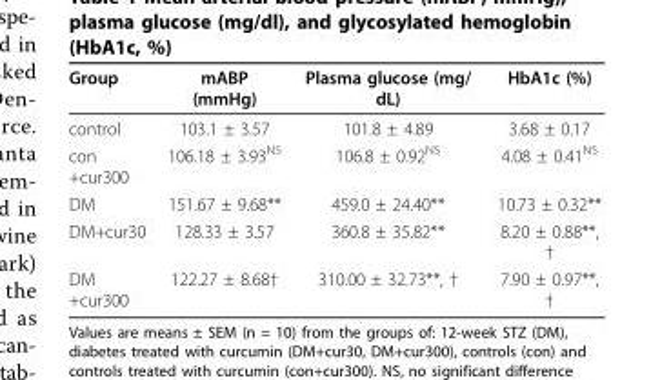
<table><thead><tr><td>Group</td><td>mABP (mmHg)</td><td>Plasma glucose (mg/ dL)</td><td>HbA1c (%)</td></tr></thead><tbody><tr><td>control</td><td>103.1 ± 3.57</td><td>101.8 ± 4.89</td><td>3.68 ± 0.17</td></tr><tr><td>con +cur300</td><td>106.18 ± 3.93<sup>NS</sup></td><td>106.8 ± 0.92<sup>NS</sup></td><td>4.08 ± 0.41<sup>NS</sup></td></tr><tr><td>DM</td><td>151.67 ± 9.68**</td><td>459.0 ± 24.40**</td><td>10.73 ± 0.32**</td></tr><tr><td>DM+cur30</td><td>128.33 ± 3.57</td><td>360.8 ± 35.82**</td><td>8.20 ± 0.88**, †</td></tr><tr><td>DM +cur300</td><td>122.27 ± 8.68†</td><td>310.00 ± 32.73**, †</td><td>7.90 ± 0.97**, †</td></tr></tbody></table>